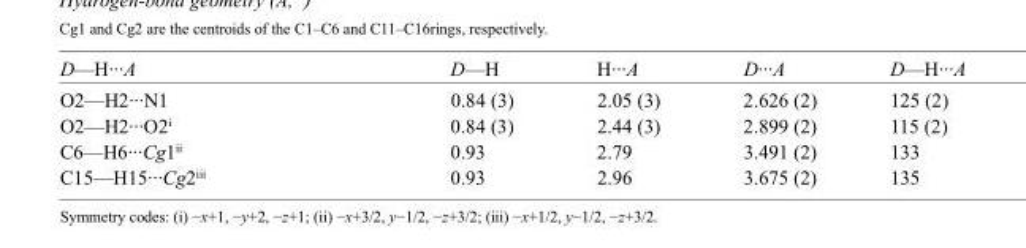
<table><tbody><tr><td>D—H···A</td><td>D—H</td><td>H···A</td><td>D···A</td><td>D—H···A</td></tr><tr><td>O2—H2···N1</td><td>0.84 (3)</td><td>2.05 (3)</td><td>2.626 (2)</td><td>125 (2)</td></tr><tr><td>O2—H2···O2<sup>i</sup></td><td>0.84 (3)</td><td>2.44 (3)</td><td>2.899 (2)</td><td>115 (2)</td></tr><tr><td>C6—H6···Cg1<sup>ii</sup></td><td>0.93</td><td>2.79</td><td>3.491 (2)</td><td>133</td></tr><tr><td>C15—H15···Cg2<sup>iii</sup></td><td>0.93</td><td>2.96</td><td>3.675 (2)</td><td>135</td></tr></tbody></table>